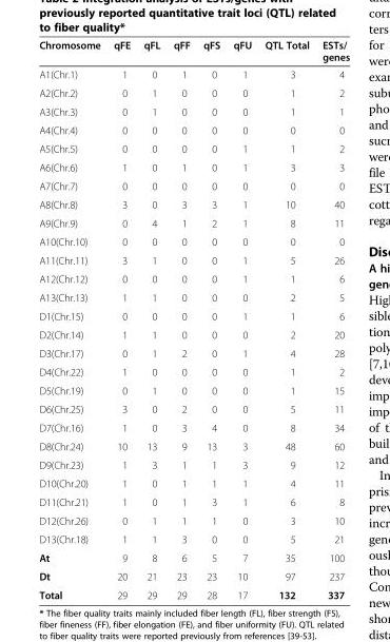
<table><thead><tr><td>Chromosome</td><td>qFE</td><td>qFL</td><td>qFF</td><td>qFS</td><td>qFU</td><td>QTL Total</td><td>ESTs/ genes</td></tr></thead><tbody><tr><td>A1(Chr.1)</td><td>1</td><td>0</td><td>1</td><td>0</td><td>1</td><td>3</td><td>4</td></tr><tr><td>A2(Chr.2)</td><td>0</td><td>1</td><td>0</td><td>0</td><td>0</td><td>1</td><td>2</td></tr><tr><td>A3(Chr.3)</td><td>0</td><td>1</td><td>0</td><td>0</td><td>0</td><td>1</td><td>1</td></tr><tr><td>A4(Chr.4)</td><td>0</td><td>0</td><td>0</td><td>0</td><td>0</td><td>0</td><td>0</td></tr><tr><td>A5(Chr.5)</td><td>0</td><td>0</td><td>0</td><td>0</td><td>1</td><td>1</td><td>2</td></tr><tr><td>A6(Chr.6)</td><td>1</td><td>0</td><td>1</td><td>0</td><td>1</td><td>3</td><td>3</td></tr><tr><td>A7(Chr.7)</td><td>0</td><td>0</td><td>0</td><td>0</td><td>0</td><td>0</td><td>0</td></tr><tr><td>A8(Chr.8)</td><td>3</td><td>0</td><td>3</td><td>3</td><td>1</td><td>10</td><td>40</td></tr><tr><td>A9(Chr.9)</td><td>0</td><td>4</td><td>1</td><td>2</td><td>1</td><td>8</td><td>11</td></tr><tr><td>A10(Chr.10)</td><td>0</td><td>0</td><td>0</td><td>0</td><td>0</td><td>0</td><td>0</td></tr><tr><td>A11(Chr.11)</td><td>3</td><td>1</td><td>0</td><td>0</td><td>1</td><td>5</td><td>26</td></tr><tr><td>A12(Chr.12)</td><td>0</td><td>0</td><td>0</td><td>0</td><td>1</td><td>1</td><td>6</td></tr><tr><td>A13(Chr.13)</td><td>1</td><td>1</td><td>0</td><td>0</td><td>0</td><td>2</td><td>5</td></tr><tr><td>D1(Chr.15)</td><td>0</td><td>0</td><td>0</td><td>0</td><td>1</td><td>1</td><td>6</td></tr><tr><td>D2(Chr.14)</td><td>1</td><td>1</td><td>0</td><td>0</td><td>0</td><td>2</td><td>20</td></tr><tr><td>D3(Chr.17)</td><td>0</td><td>1</td><td>2</td><td>0</td><td>1</td><td>4</td><td>28</td></tr><tr><td>D4(Chr.22)</td><td>1</td><td>0</td><td>0</td><td>0</td><td>0</td><td>1</td><td>2</td></tr><tr><td>D5(Chr.19)</td><td>0</td><td>1</td><td>0</td><td>0</td><td>0</td><td>1</td><td>15</td></tr><tr><td>D6(Chr.25)</td><td>3</td><td>0</td><td>2</td><td>0</td><td>0</td><td>5</td><td>11</td></tr><tr><td>D7(Chr.16)</td><td>1</td><td>0</td><td>3</td><td>4</td><td>0</td><td>8</td><td>34</td></tr><tr><td>D8(Chr.24)</td><td>10</td><td>13</td><td>9</td><td>13</td><td>3</td><td>48</td><td>60</td></tr><tr><td>D9(Chr.23)</td><td>1</td><td>3</td><td>1</td><td>1</td><td>3</td><td>9</td><td>12</td></tr><tr><td>D10(Chr.20)</td><td>1</td><td>0</td><td>1</td><td>1</td><td>1</td><td>4</td><td>11</td></tr><tr><td>D11(Chr.21)</td><td>1</td><td>0</td><td>1</td><td>3</td><td>1</td><td>6</td><td>8</td></tr><tr><td>D12(Chr.26)</td><td>0</td><td>1</td><td>1</td><td>1</td><td>0</td><td>3</td><td>10</td></tr><tr><td>D13(Chr.18)</td><td>1</td><td>1</td><td>3</td><td>0</td><td>0</td><td>5</td><td>21</td></tr><tr><td>At</td><td>9</td><td>8</td><td>6</td><td>5</td><td>7</td><td>35</td><td>100</td></tr><tr><td>Dt</td><td>20</td><td>21</td><td>23</td><td>23</td><td>10</td><td>97</td><td>237</td></tr><tr><td>Total</td><td>29</td><td>29</td><td>29</td><td>28</td><td>17</td><td>132</td><td>337</td></tr></tbody></table>